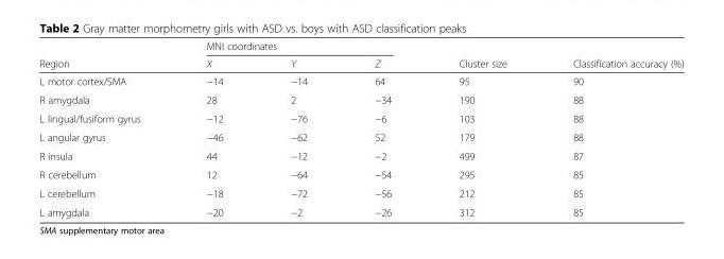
<table><thead><tr><td rowspan="2">Region</td><td colspan="3">MNI coordinates</td><td rowspan="2">Cluster size</td><td rowspan="2">Classification accuracy (%)</td></tr><tr><td>X</td><td>Y</td><td>Z</td></tr></thead><tbody><tr><td>L motor cortex/SMA</td><td>−14</td><td>−14</td><td>64</td><td>95</td><td>90</td></tr><tr><td>R amygdala</td><td>28</td><td>2</td><td>−34</td><td>190</td><td>88</td></tr><tr><td>L lingual/fusiform gyrus</td><td>−12</td><td>−76</td><td>−6</td><td>103</td><td>88</td></tr><tr><td>L angular gyrus</td><td>−46</td><td>−62</td><td>52</td><td>179</td><td>88</td></tr><tr><td>R insula</td><td>44</td><td>−12</td><td>−2</td><td>499</td><td>87</td></tr><tr><td>R cerebellum</td><td>12</td><td>−64</td><td>−54</td><td>295</td><td>85</td></tr><tr><td>L cerebellum</td><td>−18</td><td>−72</td><td>−56</td><td>212</td><td>85</td></tr><tr><td>L amygdala</td><td>−20</td><td>−2</td><td>−26</td><td>312</td><td>85</td></tr></tbody></table>